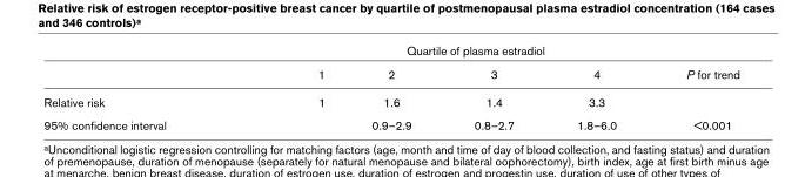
<table><thead><tr><td rowspan="2"></td><td colspan="4">Quartile of plasma estradiol</td><td rowspan="2">P for trend</td></tr><tr><td>1</td><td>2</td><td>3</td><td>4</td></tr></thead><tbody><tr><td>Relative risk</td><td>1</td><td>1.6</td><td>1.4</td><td>3.3</td><td></td></tr><tr><td>95% confidence interval</td><td></td><td>0.9–2.9</td><td>0.8–2.7</td><td>1.8–6.0</td><td>&lt;0.001</td></tr></tbody></table>